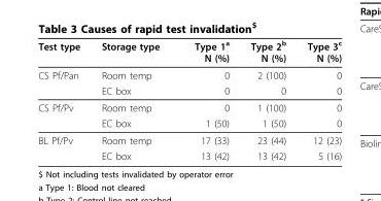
<table><thead><tr><td>Test type</td><td>Storage type</td><td>Type 1<sup>a</sup> N (%)</td><td>Type 2<sup>b</sup> N (%)</td><td>Type 3<sup>c</sup> N (%)</td></tr></thead><tbody><tr><td rowspan="2">CS Pf/Pan</td><td>Room temp</td><td>0</td><td>2 (100)</td><td>0</td></tr><tr><td>EC box</td><td>0</td><td>0</td><td>0</td></tr><tr><td rowspan="2">CS Pf/Pv</td><td>Room temp</td><td>0</td><td>1 (100)</td><td>0</td></tr><tr><td>EC box</td><td>1 (50)</td><td>1 (50)</td><td>0</td></tr><tr><td rowspan="2">BL Pf/Pv</td><td>Room temp</td><td>17 (33)</td><td>23 (44)</td><td>12 (23)</td></tr><tr><td>EC box</td><td>13 (42)</td><td>13 (42)</td><td>5 (16)</td></tr></tbody></table>